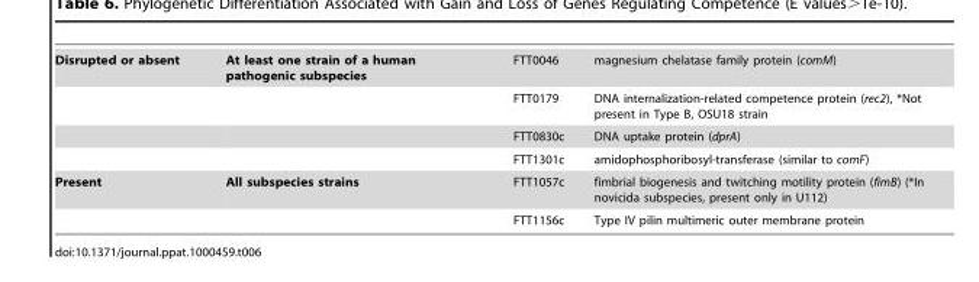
<table><tbody><tr><td rowspan="4">Disrupted or absent</td><td>At least one strain of a human pathogenic subspecies</td><td>FTT0046</td><td>magnesium chelatase family protein (comM)</td></tr><tr><td></td><td>FTT0179</td><td>DNA internalization-related competence protein (rec2), *Not present in Type B, OSU18 strain</td></tr><tr><td></td><td>FTT0830c</td><td>DNA uptake protein (dprA)</td></tr><tr><td></td><td>FTT1301c</td><td>amidophosphoribosyl-transferase (similar to comF)</td></tr><tr><td rowspan="2">Present</td><td>All subspecies strains</td><td>FTT1057c</td><td>fimbrial biogenesis and twitching motility protein (fimB) (*In novicida subspecies, present only in U112)</td></tr><tr><td></td><td>FTT1156c</td><td>Type IV pilin multimeric outer membrane protein</td></tr></tbody></table>